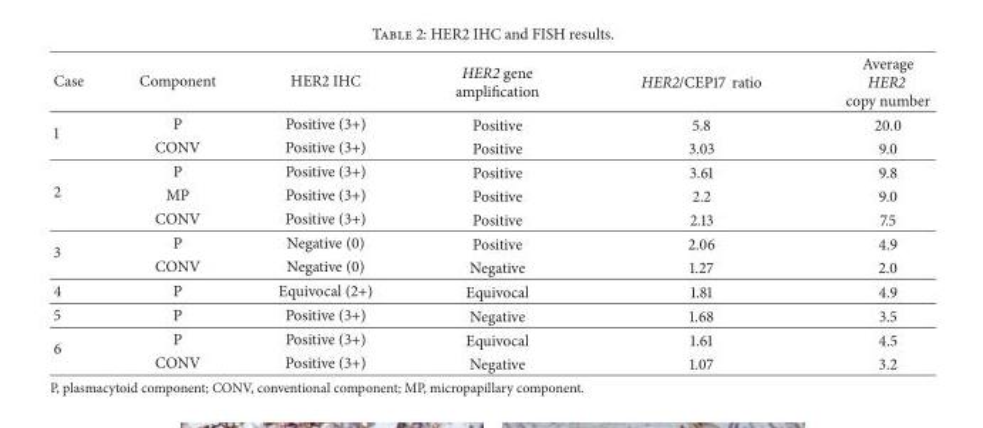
<table><thead><tr><td>Case</td><td>Component</td><td>HER2 IHC</td><td>HER2 gene amplification</td><td>HER2/CEP17 ratio</td><td>Average HER2 copy number</td></tr></thead><tbody><tr><td rowspan="2">1</td><td>P</td><td>Positive (3+)</td><td>Positive</td><td>5.8</td><td>20.0</td></tr><tr><td>CONV</td><td>Positive (3+)</td><td>Positive</td><td>3.03</td><td>9.0</td></tr><tr><td rowspan="3">2</td><td>P</td><td>Positive (3+)</td><td>Positive</td><td>3.61</td><td>9.8</td></tr><tr><td>MP</td><td>Positive (3+)</td><td>Positive</td><td>2.2</td><td>9.0</td></tr><tr><td>CONV</td><td>Positive (3+)</td><td>Positive</td><td>2.13</td><td>7.5</td></tr><tr><td rowspan="2">3</td><td>P</td><td>Negative (0)</td><td>Positive</td><td>2.06</td><td>4.9</td></tr><tr><td>CONV</td><td>Negative (0)</td><td>Negative</td><td>1.27</td><td>2.0</td></tr><tr><td>4</td><td>P</td><td>Equivocal (2+)</td><td>Equivocal</td><td>1.81</td><td>4.9</td></tr><tr><td>5</td><td>P</td><td>Positive (3+)</td><td>Negative</td><td>1.68</td><td>3.5</td></tr><tr><td rowspan="2">6</td><td>P</td><td>Positive (3+)</td><td>Equivocal</td><td>1.61</td><td>4.5</td></tr><tr><td>CONV</td><td>Positive (3+)</td><td>Negative</td><td>1.07</td><td>3.2</td></tr></tbody></table>